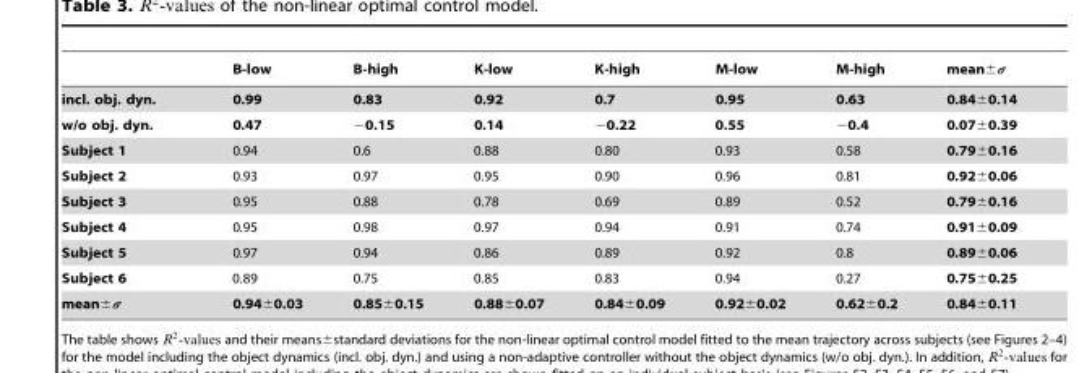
<table><thead><tr><td></td><td>B-low</td><td>B-high</td><td>K-low</td><td>K-high</td><td>M-low</td><td>M-high</td><td>mean±σ</td></tr></thead><tbody><tr><td>incl. obj. dyn.</td><td>0.99</td><td>0.83</td><td>0.92</td><td>0.7</td><td>0.95</td><td>0.63</td><td>0.84±0.14</td></tr><tr><td>w/o obj. dyn.</td><td>0.47</td><td>−0.15</td><td>0.14</td><td>−0.22</td><td>0.55</td><td>−0.4</td><td>0.07±0.39</td></tr><tr><td>Subject 1</td><td>0.94</td><td>0.6</td><td>0.88</td><td>0.80</td><td>0.93</td><td>0.58</td><td>0.79±0.16</td></tr><tr><td>Subject 2</td><td>0.93</td><td>0.97</td><td>0.95</td><td>0.90</td><td>0.96</td><td>0.81</td><td>0.92±0.06</td></tr><tr><td>Subject 3</td><td>0.95</td><td>0.88</td><td>0.78</td><td>0.69</td><td>0.89</td><td>0.52</td><td>0.79±0.16</td></tr><tr><td>Subject 4</td><td>0.95</td><td>0.98</td><td>0.97</td><td>0.94</td><td>0.91</td><td>0.74</td><td>0.91±0.09</td></tr><tr><td>Subject 5</td><td>0.97</td><td>0.94</td><td>0.86</td><td>0.89</td><td>0.92</td><td>0.8</td><td>0.89±0.06</td></tr><tr><td>Subject 6</td><td>0.89</td><td>0.75</td><td>0.85</td><td>0.83</td><td>0.94</td><td>0.27</td><td>0.75±0.25</td></tr><tr><td>mean±σ</td><td>0.94±0.03</td><td>0.85±0.15</td><td>0.88±0.07</td><td>0.84±0.09</td><td>0.92±0.02</td><td>0.62±0.2</td><td>0.84±0.11</td></tr></tbody></table>